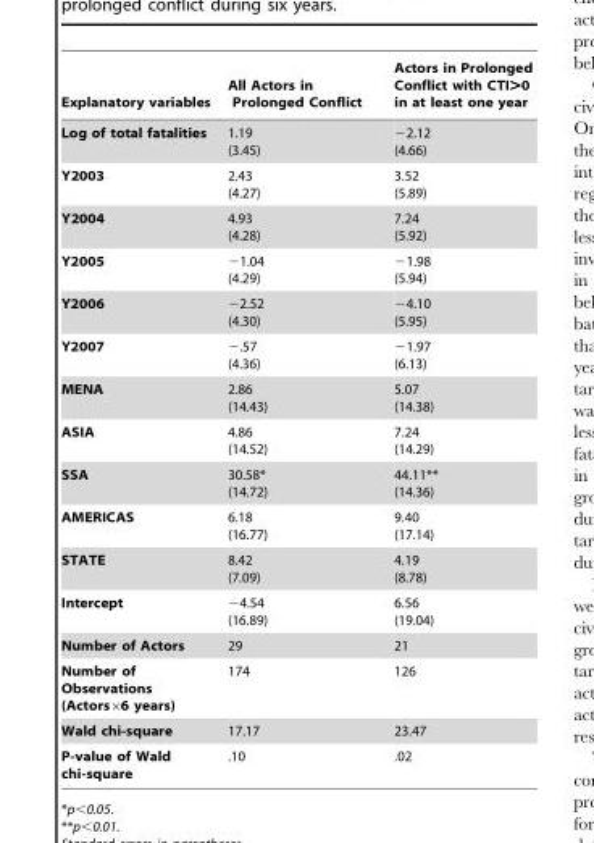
<table><thead><tr><td>Explanatory variables</td><td>All Actors in Prolonged Conflict</td><td>Actors in Prolonged Conflict with CTI&gt;0 in at least one year</td></tr></thead><tbody><tr><td>Log of total fatalities</td><td>1.19 (3.45)</td><td>−2.12 (4.66)</td></tr><tr><td>Y2003</td><td>2.43 (4.27)</td><td>3.52 (5.89)</td></tr><tr><td>Y2004</td><td>4.93 (4.28)</td><td>7.24 (5.92)</td></tr><tr><td>Y2005</td><td>−1.04 (4.29)</td><td>−1.98 (5.94)</td></tr><tr><td>Y2006</td><td>−2.52 (4.30)</td><td>−4.10 (5.95)</td></tr><tr><td>Y2007</td><td>−.57 (4.36)</td><td>−1.97 (6.13)</td></tr><tr><td>MENA</td><td>2.86 (14.43)</td><td>5.07 (14.38)</td></tr><tr><td>ASIA</td><td>4.86 (14.52)</td><td>7.24 (14.29)</td></tr><tr><td>SSA</td><td>30.58* (14.72)</td><td>44.11** (14.36)</td></tr><tr><td>AMERICAS</td><td>6.18 (16.77)</td><td>9.40 (17.14)</td></tr><tr><td>STATE</td><td>8.42 (7.09)</td><td>4.19 (8.78)</td></tr><tr><td>Intercept</td><td>−4.54 (16.89)</td><td>6.56 (19.04)</td></tr><tr><td>Number of Actors</td><td>29</td><td>21</td></tr><tr><td>Number of Observations (Actors×6 years)</td><td>174</td><td>126</td></tr><tr><td>Wald chi-square</td><td>17.17</td><td>23.47</td></tr><tr><td>P-value of Wald chi-square</td><td>.10</td><td>.02</td></tr></tbody></table>